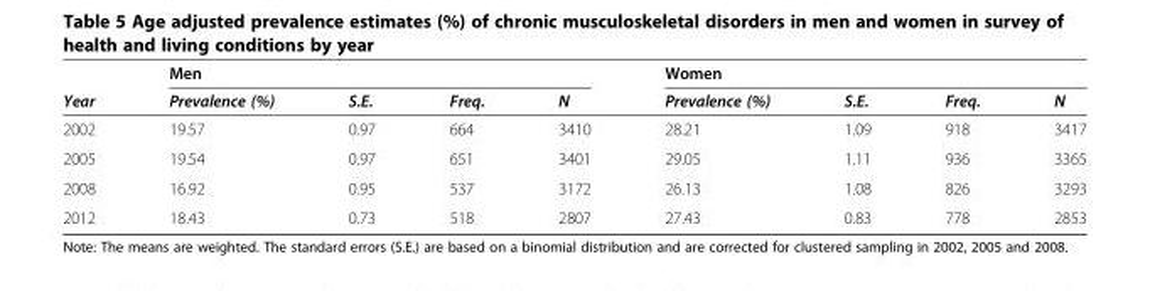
<table><thead><tr><td rowspan="2">Year</td><td colspan="4">Men</td><td colspan="4">Women</td></tr><tr><td>Prevalence (%)</td><td>S.E.</td><td>Freq.</td><td>N</td><td>Prevalence (%)</td><td>S.E.</td><td>Freq.</td><td>N</td></tr></thead><tbody><tr><td>2002</td><td>19.57</td><td>0.97</td><td>664</td><td>3410</td><td>28.21</td><td>1.09</td><td>918</td><td>3417</td></tr><tr><td>2005</td><td>19.54</td><td>0.97</td><td>651</td><td>3401</td><td>29.05</td><td>1.11</td><td>936</td><td>3365</td></tr><tr><td>2008</td><td>16.92</td><td>0.95</td><td>537</td><td>3172</td><td>26.13</td><td>1.08</td><td>826</td><td>3293</td></tr><tr><td>2012</td><td>18.43</td><td>0.73</td><td>518</td><td>2807</td><td>27.43</td><td>0.83</td><td>778</td><td>2853</td></tr></tbody></table>